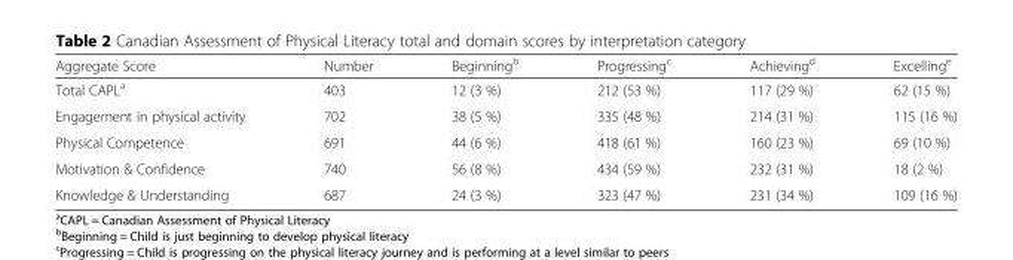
<table><thead><tr><td>Aggregate Score</td><td>Number</td><td>Beginning<sup>b</sup></td><td>Progressing<sup>c</sup></td><td>Achieving<sup>d</sup></td><td>Excelling<sup>e</sup></td></tr></thead><tbody><tr><td>Total CAPL<sup>a</sup></td><td>403</td><td>12 (3 %)</td><td>212 (53 %)</td><td>117 (29 %)</td><td>62 (15 %)</td></tr><tr><td>Engagement in physical activity</td><td>702</td><td>38 (5 %)</td><td>335 (48 %)</td><td>214 (31 %)</td><td>115 (16 %)</td></tr><tr><td>Physical Competence</td><td>691</td><td>44 (6 %)</td><td>418 (61 %)</td><td>160 (23 %)</td><td>69 (10 %)</td></tr><tr><td>Motivation &amp; Confidence</td><td>740</td><td>56 (8 %)</td><td>434 (59 %)</td><td>232 (31 %)</td><td>18 (2 %)</td></tr><tr><td>Knowledge &amp; Understanding</td><td>687</td><td>24 (3 %)</td><td>323 (47 %)</td><td>231 (34 %)</td><td>109 (16 %)</td></tr></tbody></table>